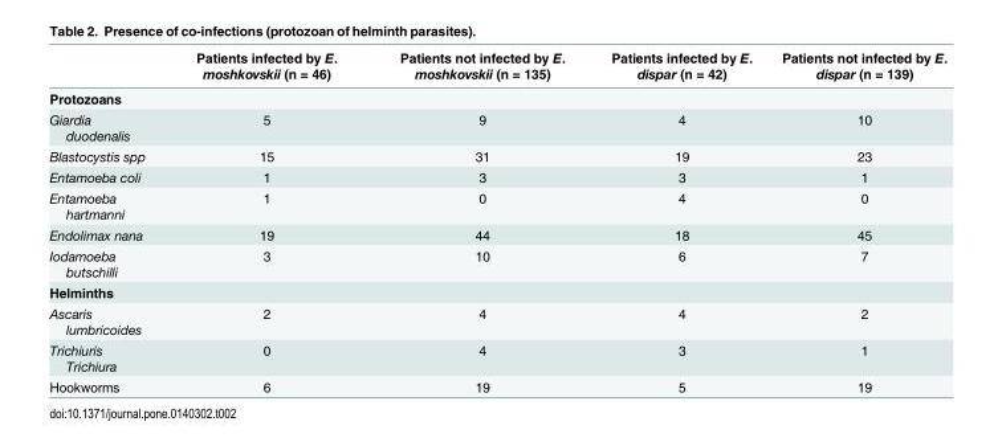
<table><thead><tr><td></td><td>Patients infected by E. moshkovskii (n = 46)</td><td>Patients not infected by E. moshkovskii (n = 135)</td><td>Patients infected by E. dispar (n = 42)</td><td>Patients not infected by E. dispar (n = 139)</td></tr></thead><tbody><tr><td colspan="5">Protozoans</td></tr><tr><td>Giardia duodenalis</td><td>5</td><td>9</td><td>4</td><td>10</td></tr><tr><td>Blastocystis spp</td><td>15</td><td>31</td><td>19</td><td>23</td></tr><tr><td>Entamoeba coli</td><td>1</td><td>3</td><td>3</td><td>1</td></tr><tr><td>Entamoeba hartmanni</td><td>1</td><td>0</td><td>4</td><td>0</td></tr><tr><td>Endolimax nana</td><td>19</td><td>44</td><td>18</td><td>45</td></tr><tr><td>Iodamoeba butschilli</td><td>3</td><td>10</td><td>6</td><td>7</td></tr><tr><td colspan="5">Helminths</td></tr><tr><td>Ascaris lumbricoides</td><td>2</td><td>4</td><td>4</td><td>2</td></tr><tr><td>Trichiuris Trichiura</td><td>0</td><td>4</td><td>3</td><td>1</td></tr><tr><td>Hookworms</td><td>6</td><td>19</td><td>5</td><td>19</td></tr></tbody></table>